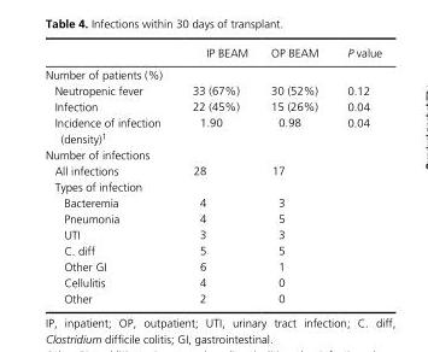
<table><thead><tr><td></td><td>IP BEAM</td><td>OP BEAM</td><td>P value</td></tr></thead><tbody><tr><td colspan="4">Number of patients (%)</td></tr><tr><td>Neutropenic fever</td><td>33 (67%)</td><td>30 (52%)</td><td>0.12</td></tr><tr><td>Infection</td><td>22 (45%)</td><td>15 (26%)</td><td>0.04</td></tr><tr><td>Incidence of infection (density)1</td><td>1.90</td><td>0.98</td><td>0.04</td></tr><tr><td colspan="4">Number of infections</td></tr><tr><td>All infections</td><td>28</td><td>17</td><td></td></tr><tr><td colspan="4">Types of infection</td></tr><tr><td>Bacteremia</td><td>4</td><td>3</td><td></td></tr><tr><td>Pneumonia</td><td>4</td><td>5</td><td></td></tr><tr><td>UTI</td><td>3</td><td>3</td><td></td></tr><tr><td>C. diff</td><td>5</td><td>5</td><td></td></tr><tr><td>Other GI</td><td>6</td><td>1</td><td></td></tr><tr><td>Cellulitis</td><td>4</td><td>0</td><td></td></tr><tr><td>Other</td><td>2</td><td>0</td><td></td></tr></tbody></table>